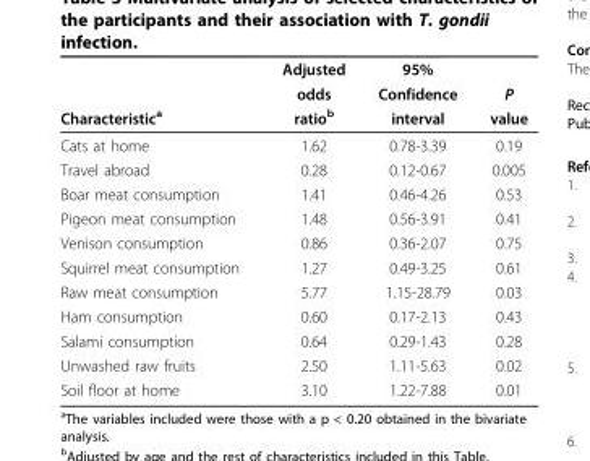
<table><thead><tr><td rowspan="3">Characteristic<sup>a</sup></td><td rowspan="3">Adjusted odds ratio<sup>b</sup></td><td rowspan="3">95% Confidence interval</td><td rowspan="3">P value</td></tr><tr></tr><tr></tr></thead><tbody><tr><td>Cats at home</td><td>1.62</td><td>0.78-3.39</td><td>0.19</td></tr><tr><td>Travel abroad</td><td>0.28</td><td>0.12-0.67</td><td>0.005</td></tr><tr><td>Boar meat consumption</td><td>1.41</td><td>0.46-4.26</td><td>0.53</td></tr><tr><td>Pigeon meat consumption</td><td>1.48</td><td>0.56-3.91</td><td>0.41</td></tr><tr><td>Venison consumption</td><td>0.86</td><td>0.36-2.07</td><td>0.75</td></tr><tr><td>Squirrel meat consumption</td><td>1.27</td><td>0.49-3.25</td><td>0.61</td></tr><tr><td>Raw meat consumption</td><td>5.77</td><td>1.15-28.79</td><td>0.03</td></tr><tr><td>Ham consumption</td><td>0.60</td><td>0.17-2.13</td><td>0.43</td></tr><tr><td>Salami consumption</td><td>0.64</td><td>0.29-1.43</td><td>0.28</td></tr><tr><td>Unwashed raw fruits</td><td>2.50</td><td>1.11-5.63</td><td>0.02</td></tr><tr><td>Soil floor at home</td><td>3.10</td><td>1.22-7.88</td><td>0.01</td></tr></tbody></table>